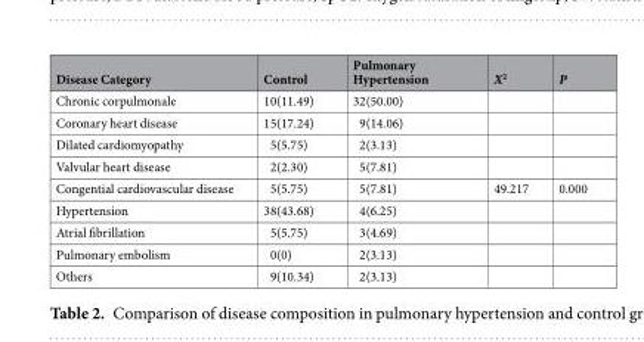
<table><thead><tr><td>Disease Category</td><td>Control</td><td>Pulmonary Hypertension</td><td>X<sup>2</sup></td><td>P</td></tr></thead><tbody><tr><td>Chronic corpulmonale</td><td>10(11.49)</td><td>32(50.00)</td><td></td><td></td></tr><tr><td>Coronary heart disease</td><td>15(17.24)</td><td>9(14.06)</td><td></td><td></td></tr><tr><td>Dilated cardiomyopathy</td><td>5(5.75)</td><td>2(3.13)</td><td></td><td></td></tr><tr><td>Valvular heart disease</td><td>2(2.30)</td><td>5(7.81)</td><td></td><td></td></tr><tr><td>Congential cardiovascular disease</td><td>5(5.75)</td><td>5(7.81)</td><td>49.217</td><td>0.000</td></tr><tr><td>Hypertension</td><td>38(43.68)</td><td>4(6.25)</td><td></td><td></td></tr><tr><td>Atrial fibrillation</td><td>5(5.75)</td><td>3(4.69)</td><td></td><td></td></tr><tr><td>Pulmonary embolism</td><td>0(0)</td><td>2(3.13)</td><td></td><td></td></tr><tr><td>Others</td><td>9(10.34)</td><td>2(3.13)</td><td></td><td></td></tr></tbody></table>